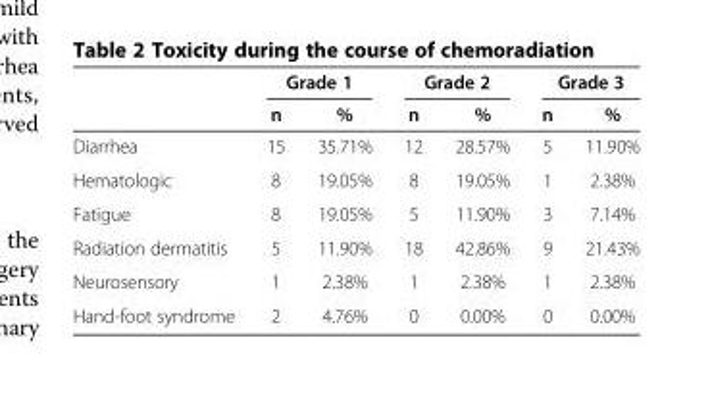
<table><thead><tr><td rowspan="2"></td><td colspan="2">Grade 1</td><td colspan="2">Grade 2</td><td colspan="2">Grade 3</td></tr><tr><td>n</td><td>%</td><td>n</td><td>%</td><td>n</td><td>%</td></tr></thead><tbody><tr><td>Diarrhea</td><td>15</td><td>35.71%</td><td>12</td><td>28.57%</td><td>5</td><td>11.90%</td></tr><tr><td>Hematologic</td><td>8</td><td>19.05%</td><td>8</td><td>19.05%</td><td>1</td><td>2.38%</td></tr><tr><td>Fatigue</td><td>8</td><td>19.05%</td><td>5</td><td>11.90%</td><td>3</td><td>7.14%</td></tr><tr><td>Radiation dermatitis</td><td>5</td><td>11.90%</td><td>18</td><td>42.86%</td><td>9</td><td>21.43%</td></tr><tr><td>Neurosensory</td><td>1</td><td>2.38%</td><td>1</td><td>2.38%</td><td>1</td><td>2.38%</td></tr><tr><td>Hand-foot syndrome</td><td>2</td><td>4.76%</td><td>0</td><td>0.00%</td><td>0</td><td>0.00%</td></tr></tbody></table>